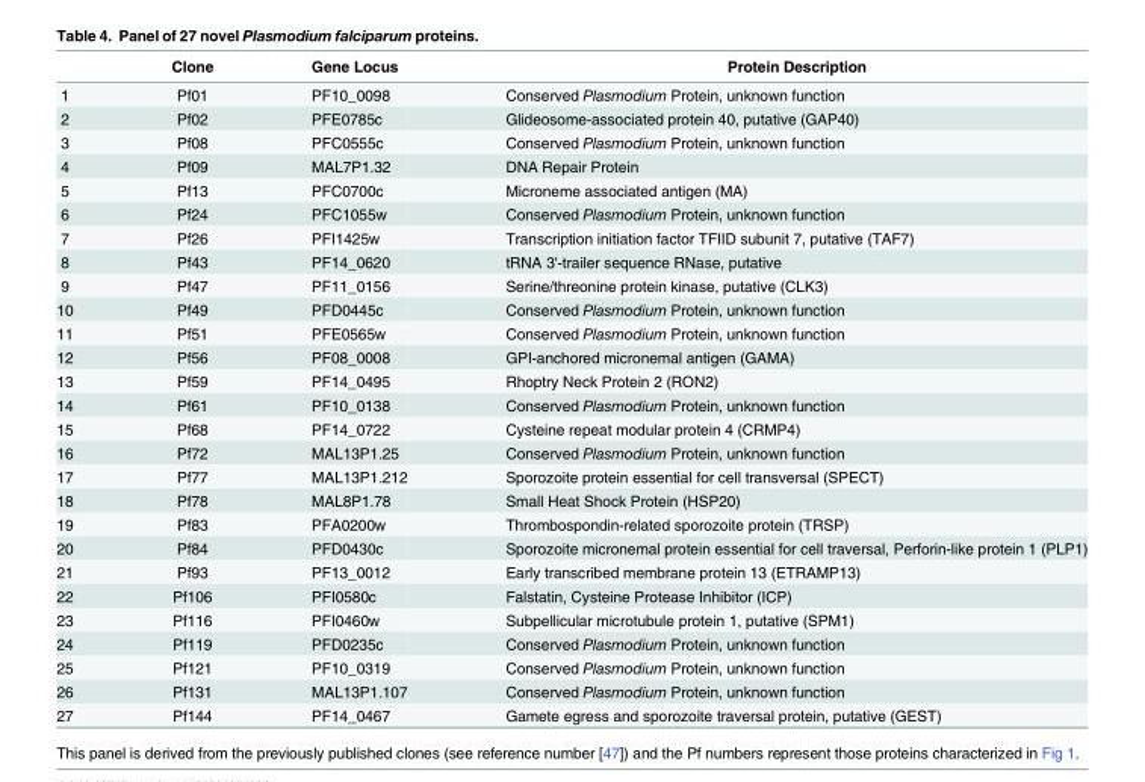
<table><thead><tr><td></td><td>Clone</td><td>Gene Locus</td><td>Protein Description</td></tr></thead><tbody><tr><td>1</td><td>Pf01</td><td>PF10_0098</td><td>Conserved Plasmodium Protein, unknown function</td></tr><tr><td>2</td><td>Pf02</td><td>PFE0785c</td><td>Glideosome-associated protein 40, putative (GAP40)</td></tr><tr><td>3</td><td>Pf08</td><td>PFC0555c</td><td>Conserved Plasmodium Protein, unknown function</td></tr><tr><td>4</td><td>Pf09</td><td>MAL7P1.32</td><td>DNA Repair Protein</td></tr><tr><td>5</td><td>Pf13</td><td>PFC0700c</td><td>Microneme associated antigen (MA)</td></tr><tr><td>6</td><td>Pf24</td><td>PFC1055w</td><td>Conserved Plasmodium Protein, unknown function</td></tr><tr><td>7</td><td>Pf26</td><td>PFI1425w</td><td>Transcription initiation factor TFIID subunit 7, putative (TAF7)</td></tr><tr><td>8</td><td>Pf43</td><td>PF14_0620</td><td>tRNA 3&#x27;-trailer sequence RNase, putative</td></tr><tr><td>9</td><td>Pf47</td><td>PF11_0156</td><td>Serine/threonine protein kinase, putative (CLK3)</td></tr><tr><td>10</td><td>Pf49</td><td>PFD0445c</td><td>Conserved Plasmodium Protein, unknown function</td></tr><tr><td>11</td><td>Pf51</td><td>PFE0565w</td><td>Conserved Plasmodium Protein, unknown function</td></tr><tr><td>12</td><td>Pf56</td><td>PF08_0008</td><td>GPI-anchored micronemal antigen (GAMA)</td></tr><tr><td>13</td><td>Pf59</td><td>PF14_0495</td><td>Rhoptry Neck Protein 2 (RON2)</td></tr><tr><td>14</td><td>Pf61</td><td>PF10_0138</td><td>Conserved Plasmodium Protein, unknown function</td></tr><tr><td>15</td><td>Pf68</td><td>PF14_0722</td><td>Cysteine repeat modular protein 4 (CRMP4)</td></tr><tr><td>16</td><td>Pf72</td><td>MAL13P1.25</td><td>Conserved Plasmodium Protein, unknown function</td></tr><tr><td>17</td><td>Pf77</td><td>MAL13P1.212</td><td>Sporozoite protein essential for cell transversal (SPECT)</td></tr><tr><td>18</td><td>Pf78</td><td>MAL8P1.78</td><td>Small Heat Shock Protein (HSP20)</td></tr><tr><td>19</td><td>Pf83</td><td>PFA0200w</td><td>Thrombospondin-related sporozoite protein (TRSP)</td></tr><tr><td>20</td><td>Pf84</td><td>PFD0430c</td><td>Sporozoite micronemal protein essential for cell traversal, Perforin-like protein 1 (PLP1)</td></tr><tr><td>21</td><td>Pf93</td><td>PF13_0012</td><td>Early transcribed membrane protein 13 (ETRAMP13)</td></tr><tr><td>22</td><td>Pf106</td><td>PFI0580c</td><td>Falstatin, Cysteine Protease Inhibitor (ICP)</td></tr><tr><td>23</td><td>Pf116</td><td>PFI0460w</td><td>Subpellicular microtubule protein 1, putative (SPM1)</td></tr><tr><td>24</td><td>Pf119</td><td>PFD0235c</td><td>Conserved Plasmodium Protein, unknown function</td></tr><tr><td>25</td><td>Pf121</td><td>PF10_0319</td><td>Conserved Plasmodium Protein, unknown function</td></tr><tr><td>26</td><td>Pf131</td><td>MAL13P1.107</td><td>Conserved Plasmodium Protein, unknown function</td></tr><tr><td>27</td><td>Pf144</td><td>PF14_0467</td><td>Gamete egress and sporozoite traversal protein, putative (GEST)</td></tr></tbody></table>